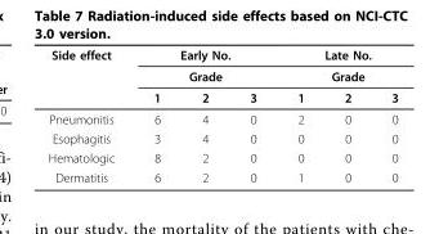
<table><thead><tr><td rowspan="3">Side effect</td><td rowspan="2" colspan="3">Early No. Grade</td><td rowspan="2" colspan="3">Late No. Grade</td></tr><tr></tr><tr><td>1</td><td>2</td><td>3</td><td>1</td><td>2</td><td>3</td></tr></thead><tbody><tr><td>Pneumonitis</td><td>6</td><td>4</td><td>0</td><td>2</td><td>0</td><td>0</td></tr><tr><td>Esophagitis</td><td>3</td><td>4</td><td>0</td><td>0</td><td>0</td><td>0</td></tr><tr><td>Hematologic</td><td>8</td><td>2</td><td>0</td><td>0</td><td>0</td><td>0</td></tr><tr><td>Dermatitis</td><td>6</td><td>2</td><td>0</td><td>1</td><td>0</td><td>0</td></tr></tbody></table>